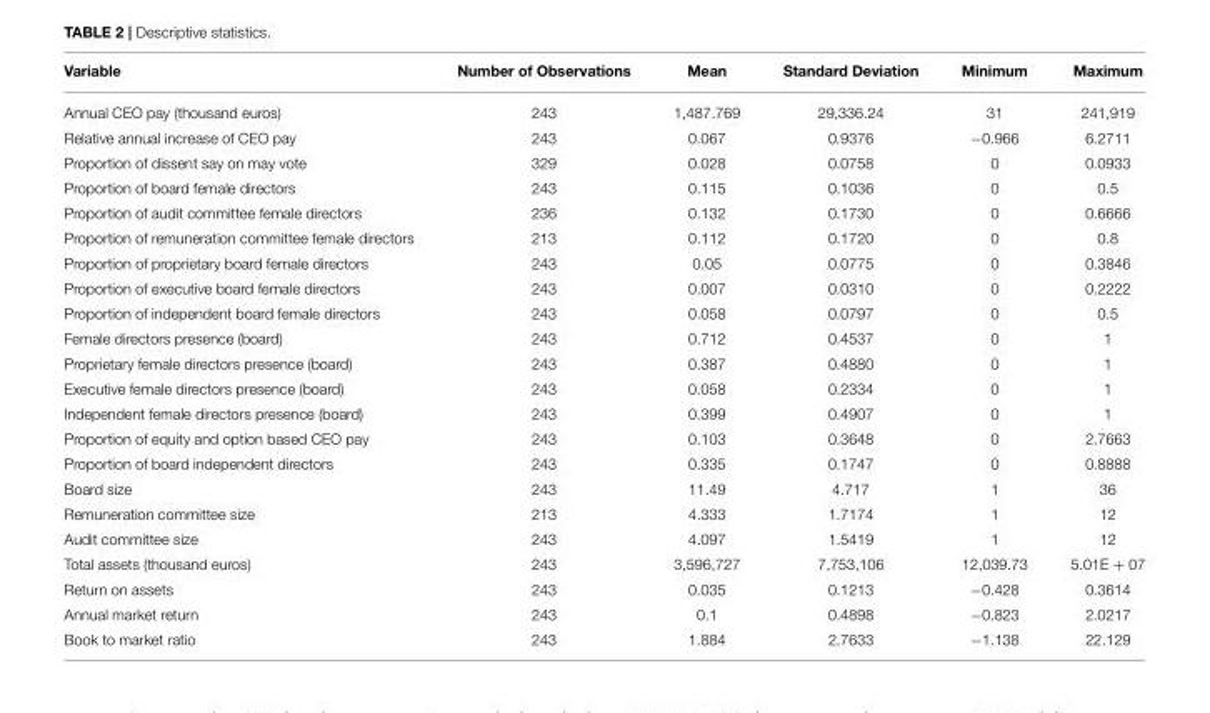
<table><thead><tr><td>Variable</td><td>Number of Observations</td><td>Mean</td><td>Standard Deviation</td><td>Minimum</td><td>Maximum</td></tr></thead><tbody><tr><td>Annual CEO pay (thousand euros)</td><td>243</td><td>1,487.769</td><td>29,336.24</td><td>31</td><td>241,919</td></tr><tr><td>Relative annual increase of CEO pay</td><td>243</td><td>0.067</td><td>0.9376</td><td>−0.966</td><td>6.2711</td></tr><tr><td>Proportion of dissent say on may vote</td><td>329</td><td>0.028</td><td>0.0758</td><td>0</td><td>0.0933</td></tr><tr><td>Proportion of board female directors</td><td>243</td><td>0.115</td><td>0.1036</td><td>0</td><td>0.5</td></tr><tr><td>Proportion of audit committee female directors</td><td>236</td><td>0.132</td><td>0.1730</td><td>0</td><td>0.6666</td></tr><tr><td>Proportion of remuneration committee female directors</td><td>213</td><td>0.112</td><td>0.1720</td><td>0</td><td>0.8</td></tr><tr><td>Proportion of proprietary board female directors</td><td>243</td><td>0.05</td><td>0.0775</td><td>0</td><td>0.3846</td></tr><tr><td>Proportion of executive board female directors</td><td>243</td><td>0.007</td><td>0.0310</td><td>0</td><td>0.2222</td></tr><tr><td>Proportion of independent board female directors</td><td>243</td><td>0.058</td><td>0.0797</td><td>0</td><td>0.5</td></tr><tr><td>Female directors presence (board)</td><td>243</td><td>0.712</td><td>0.4537</td><td>0</td><td>1</td></tr><tr><td>Proprietary female directors presence (board)</td><td>243</td><td>0.387</td><td>0.4880</td><td>0</td><td>1</td></tr><tr><td>Executive female directors presence (board)</td><td>243</td><td>0.058</td><td>0.2334</td><td>0</td><td>1</td></tr><tr><td>Independent female directors presence (board)</td><td>243</td><td>0.399</td><td>0.4907</td><td>0</td><td>1</td></tr><tr><td>Proportion of equity and option based CEO pay</td><td>243</td><td>0.103</td><td>0.3648</td><td>0</td><td>2.7663</td></tr><tr><td>Proportion of board independent directors</td><td>243</td><td>0.335</td><td>0.1747</td><td>0</td><td>0.8888</td></tr><tr><td>Board size</td><td>243</td><td>11.49</td><td>4.717</td><td>1</td><td>36</td></tr><tr><td>Remuneration committee size</td><td>213</td><td>4.333</td><td>1.7174</td><td>1</td><td>12</td></tr><tr><td>Audit committee size</td><td>243</td><td>4.097</td><td>1.5419</td><td>1</td><td>12</td></tr><tr><td>Total assets (thousand euros)</td><td>243</td><td>3,596,727</td><td>7,753,106</td><td>12,039.73</td><td>5.01E + 07</td></tr><tr><td>Return on assets</td><td>243</td><td>0.035</td><td>0.1213</td><td>−0.428</td><td>0.3614</td></tr><tr><td>Annual market return</td><td>243</td><td>0.1</td><td>0.4898</td><td>−0.823</td><td>2.0217</td></tr><tr><td>Book to market ratio</td><td>243</td><td>1.884</td><td>2.7633</td><td>−1.138</td><td>22.129</td></tr></tbody></table>